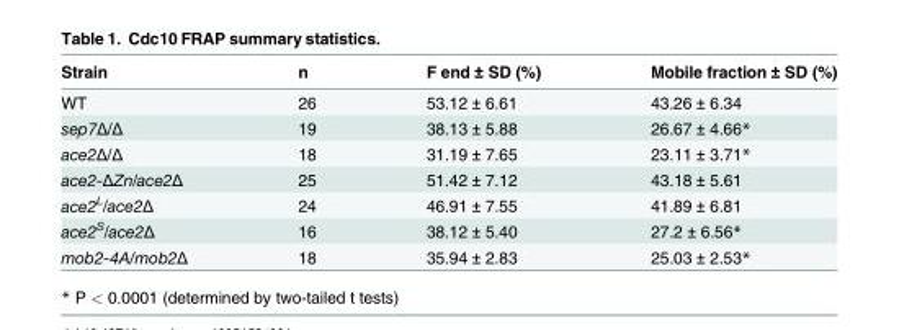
<table><thead><tr><td>Strain</td><td>n</td><td>F end ± SD (%)</td><td>Mobile fraction ± SD (%)</td></tr></thead><tbody><tr><td>WT</td><td>26</td><td>53.12 ± 6.61</td><td>43.26 ± 6.34</td></tr><tr><td>sep7Δ/Δ</td><td>19</td><td>38.13 ± 5.88</td><td>26.67 ± 4.66*</td></tr><tr><td>ace2Δ/Δ</td><td>18</td><td>31.19 ± 7.65</td><td>23.11 ± 3.71*</td></tr><tr><td>ace2-ΔZn/ace2Δ</td><td>25</td><td>51.42 ± 7.12</td><td>43.18 ± 5.61</td></tr><tr><td>ace2<sup>L</sup>/ace2Δ</td><td>24</td><td>46.91 ± 7.55</td><td>41.89 ± 6.81</td></tr><tr><td>ace2<sup>S</sup>/ace2Δ</td><td>16</td><td>38.12 ± 5.40</td><td>27.2 ± 6.56*</td></tr><tr><td>mob2-4A/mob2Δ</td><td>18</td><td>35.94 ± 2.83</td><td>25.03 ± 2.53*</td></tr></tbody></table>